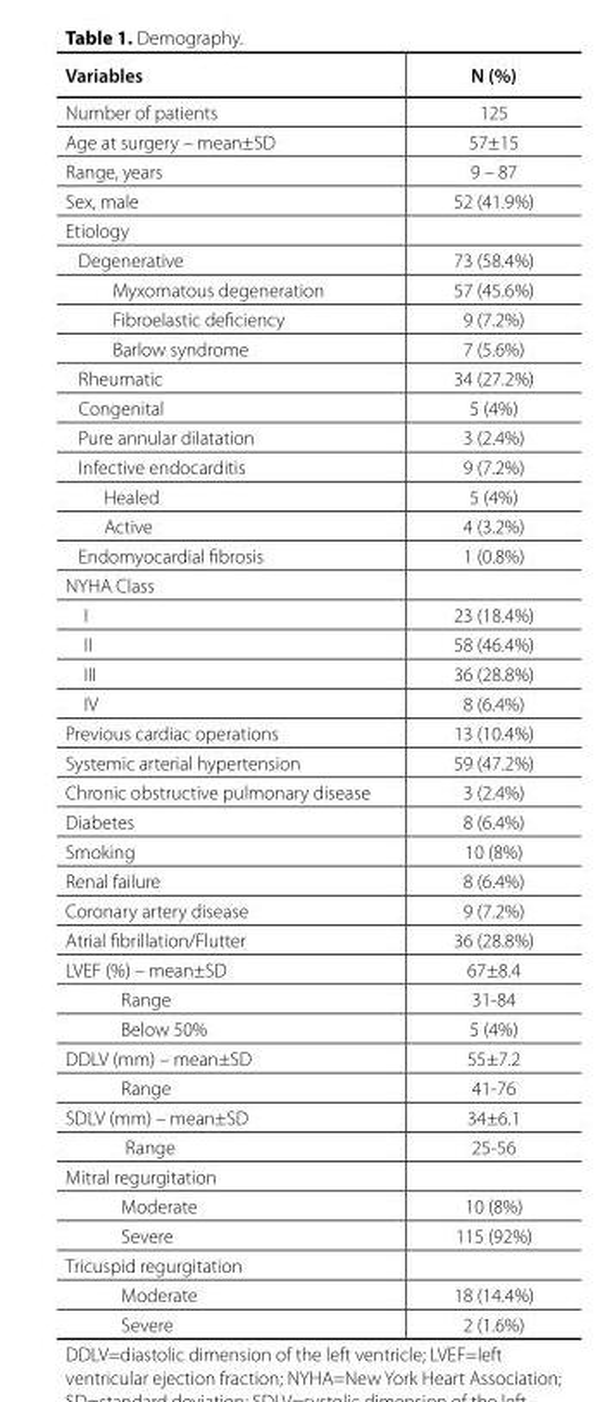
<table><thead><tr><td>Variables</td><td>N (%)</td></tr></thead><tbody><tr><td>Number of patients</td><td>125</td></tr><tr><td>Age at surgery – mean±SD</td><td>57±15</td></tr><tr><td>Range, years</td><td>9 – 87</td></tr><tr><td>Sex, male</td><td>52 (41.9%)</td></tr><tr><td colspan="2">Etiology</td></tr><tr><td>Degenerative</td><td>73 (58.4%)</td></tr><tr><td>Myxomatous degeneration</td><td>57 (45.6%)</td></tr><tr><td>Fibroelastic deficiency</td><td>9 (7.2%)</td></tr><tr><td>Barlow syndrome</td><td>7 (5.6%)</td></tr><tr><td>Rheumatic</td><td>34 (27.2%)</td></tr><tr><td>Congenital</td><td>5 (4%)</td></tr><tr><td>Pure annular dilatation</td><td>3 (2.4%)</td></tr><tr><td>Infective endocarditis</td><td>9 (7.2%)</td></tr><tr><td>Healed</td><td>5 (4%)</td></tr><tr><td>Active</td><td>4 (3.2%)</td></tr><tr><td>Endomyocardial fibrosis</td><td>1 (0.8%)</td></tr><tr><td colspan="2">NYHA Class</td></tr><tr><td>I</td><td>23 (18.4%)</td></tr><tr><td>II</td><td>58 (46.4%)</td></tr><tr><td>III</td><td>36 (28.8%)</td></tr><tr><td>IV</td><td>8 (6.4%)</td></tr><tr><td>Previous cardiac operations</td><td>13 (10.4%)</td></tr><tr><td>Systemic arterial hypertension</td><td>59 (47.2%)</td></tr><tr><td>Chronic obstructive pulmonary disease</td><td>3 (2.4%)</td></tr><tr><td>Diabetes</td><td>8 (6.4%)</td></tr><tr><td>Smoking</td><td>10 (8%)</td></tr><tr><td>Renal failure</td><td>8 (6.4%)</td></tr><tr><td>Coronary artery disease</td><td>9 (7.2%)</td></tr><tr><td>Atrial fibrillation/Flutter</td><td>36 (28.8%)</td></tr><tr><td>LVEF (%) – mean±SD</td><td>67±8.4</td></tr><tr><td>Range</td><td>31-84</td></tr><tr><td>Below 50%</td><td>5 (4%)</td></tr><tr><td>DDLV (mm) – mean±SD</td><td>55±7.2</td></tr><tr><td>Range</td><td>41-76</td></tr><tr><td>SDLV (mm) – mean±SD</td><td>34±6.1</td></tr><tr><td>Range</td><td>25-56</td></tr><tr><td colspan="2">Mitral regurgitation</td></tr><tr><td>Moderate</td><td>10 (8%)</td></tr><tr><td>Severe</td><td>115 (92%)</td></tr><tr><td colspan="2">Tricuspid regurgitation</td></tr><tr><td>Moderate</td><td>18 (14.4%)</td></tr><tr><td>Severe</td><td>2 (1.6%)</td></tr></tbody></table>